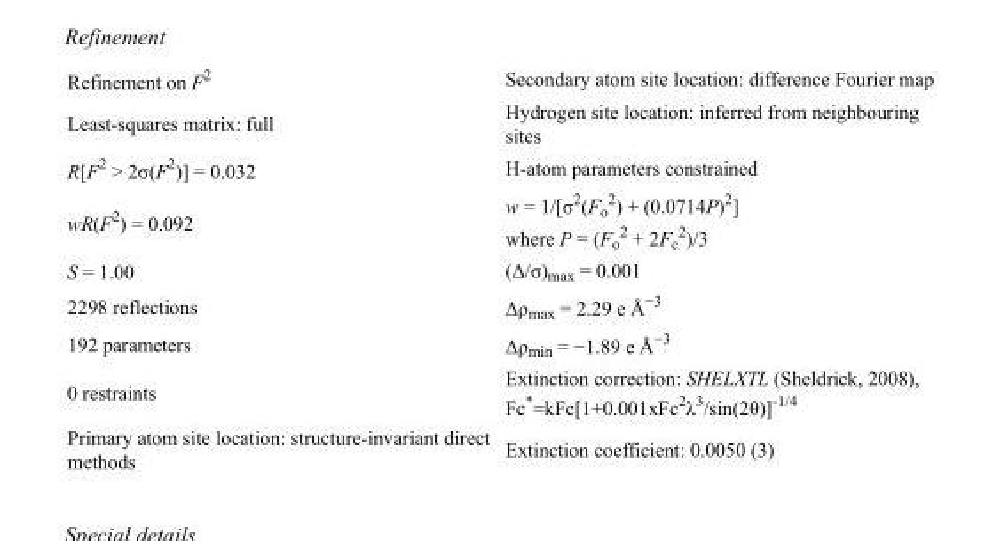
<table><tbody><tr><td>Refinement on F<sup>2</sup></td><td>Secondary atom site location: difference Fourier map</td></tr><tr><td>Least-squares matrix: full</td><td>Hydrogen site location: inferred from neighbouring sites</td></tr><tr><td>R[F<sup>2</sup> &gt; 2σ(F<sup>2</sup>)] = 0.032</td><td>H-atom parameters constrained</td></tr><tr><td>wR(F<sup>2</sup>) = 0.092</td><td>w = 1/[σ<sup>2</sup>(F<sub>o</sub> <sup>2</sup>) + (0.0714P)<sup>2</sup>] where P = (F<sub>o</sub> <sup>2</sup> + 2F<sub>c</sub> <sup>2</sup>)/3</td></tr><tr><td>S = 1.00</td><td>(Δ/σ)<sub>max</sub> = 0.001</td></tr><tr><td>2298 reflections</td><td>Δρ<sub>max</sub> = 2.29 e Å<sup>−3</sup></td></tr><tr><td>192 parameters</td><td>Δρ<sub>min</sub> = −1.89 e Å<sup>−3</sup></td></tr><tr><td>0 restraints</td><td>Extinction correction: SHELXTL (Sheldrick, 2008), Fc*=kFc[1+0.001xFc<sup>2</sup>λ<sup>3</sup>/sin(2θ)]<sup>-1/4</sup></td></tr><tr><td>Primary atom site location: structure-invariant direct methods</td><td>Extinction coefficient: 0.0050 (3)</td></tr></tbody></table>